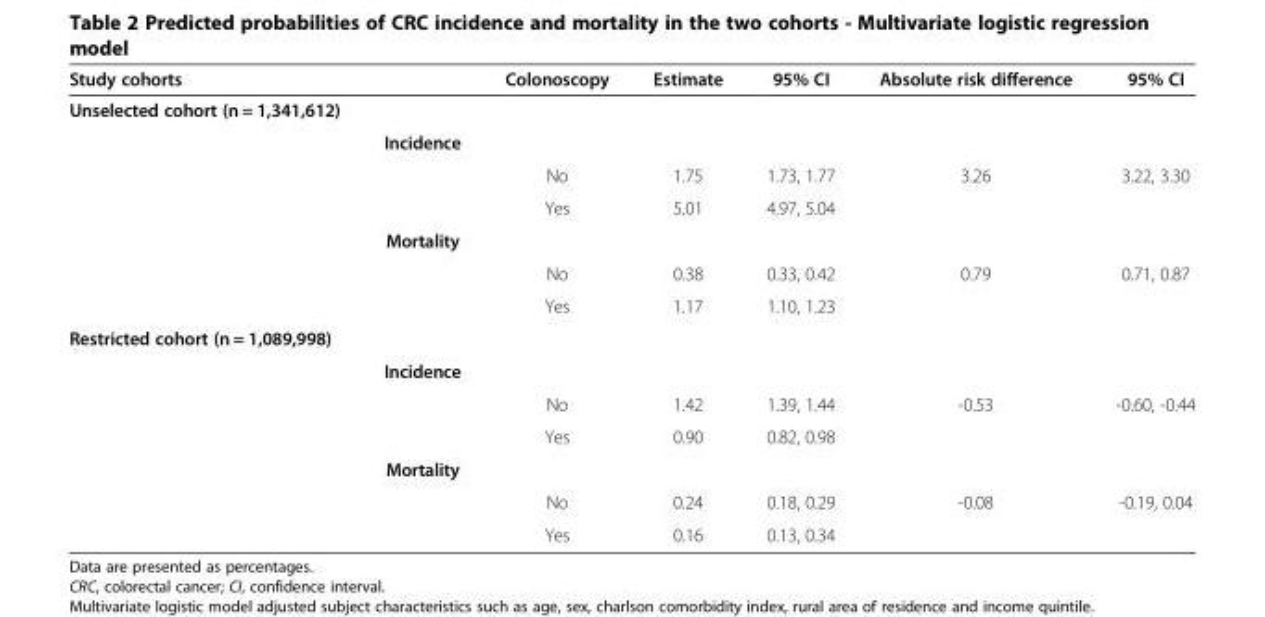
<table><thead><tr><td>Study cohorts</td><td></td><td>Colonoscopy</td><td>Estimate</td><td>95% CI</td><td>Absolute risk difference</td><td>95% CI</td></tr></thead><tbody><tr><td colspan="7">Unselected cohort (n = 1,341,612)</td></tr><tr><td></td><td>Incidence</td><td></td><td></td><td></td><td></td><td></td></tr><tr><td></td><td></td><td>No</td><td>1.75</td><td>1.73, 1.77</td><td>3.26</td><td>3.22, 3.30</td></tr><tr><td></td><td></td><td>Yes</td><td>5.01</td><td>4.97, 5.04</td><td></td><td></td></tr><tr><td></td><td>Mortality</td><td></td><td></td><td></td><td></td><td></td></tr><tr><td></td><td></td><td>No</td><td>0.38</td><td>0.33, 0.42</td><td>0.79</td><td>0.71, 0.87</td></tr><tr><td></td><td></td><td>Yes</td><td>1.17</td><td>1.10, 1.23</td><td></td><td></td></tr><tr><td colspan="7">Restricted cohort (n = 1,089,998)</td></tr><tr><td></td><td>Incidence</td><td></td><td></td><td></td><td></td><td></td></tr><tr><td></td><td></td><td>No</td><td>1.42</td><td>1.39, 1.44</td><td>-0.53</td><td>-0.60, -0.44</td></tr><tr><td></td><td></td><td>Yes</td><td>0.90</td><td>0.82, 0.98</td><td></td><td></td></tr><tr><td></td><td>Mortality</td><td></td><td></td><td></td><td></td><td></td></tr><tr><td></td><td></td><td>No</td><td>0.24</td><td>0.18, 0.29</td><td>-0.08</td><td>-0.19, 0.04</td></tr><tr><td></td><td></td><td>Yes</td><td>0.16</td><td>0.13, 0.34</td><td></td><td></td></tr></tbody></table>